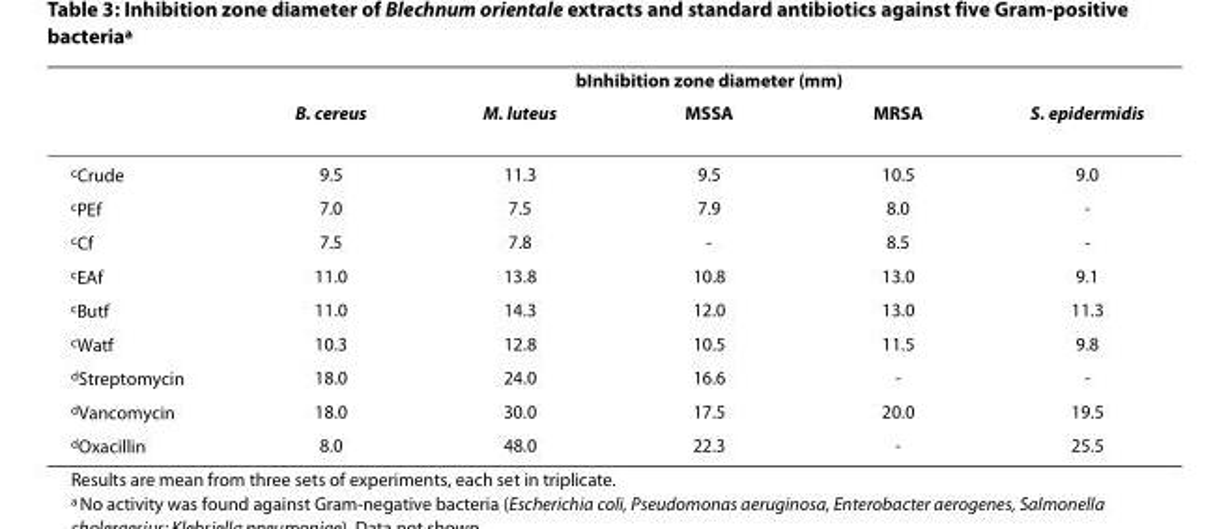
<table><thead><tr><td rowspan="2"></td><td colspan="5"><sup>b</sup>Inhibition zone diameter (mm)</td></tr><tr><td>B. cereus</td><td>M. luteus</td><td>MSSA</td><td>MRSA</td><td>S. epidermidis</td></tr></thead><tbody><tr><td><sup>c</sup>Crude</td><td>9.5</td><td>11.3</td><td>9.5</td><td>10.5</td><td>9.0</td></tr><tr><td><sup>c</sup>PEf</td><td>7.0</td><td>7.5</td><td>7.9</td><td>8.0</td><td>-</td></tr><tr><td><sup>c</sup>Cf</td><td>7.5</td><td>7.8</td><td>-</td><td>8.5</td><td>-</td></tr><tr><td><sup>c</sup>EAf</td><td>11.0</td><td>13.8</td><td>10.8</td><td>13.0</td><td>9.1</td></tr><tr><td><sup>c</sup>Butf</td><td>11.0</td><td>14.3</td><td>12.0</td><td>13.0</td><td>11.3</td></tr><tr><td><sup>c</sup>Watf</td><td>10.3</td><td>12.8</td><td>10.5</td><td>11.5</td><td>9.8</td></tr><tr><td><sup>d</sup>Streptomycin</td><td>18.0</td><td>24.0</td><td>16.6</td><td>-</td><td>-</td></tr><tr><td><sup>d</sup>Vancomycin</td><td>18.0</td><td>30.0</td><td>17.5</td><td>20.0</td><td>19.5</td></tr><tr><td><sup>d</sup>Oxacillin</td><td>8.0</td><td>48.0</td><td>22.3</td><td>-</td><td>25.5</td></tr></tbody></table>